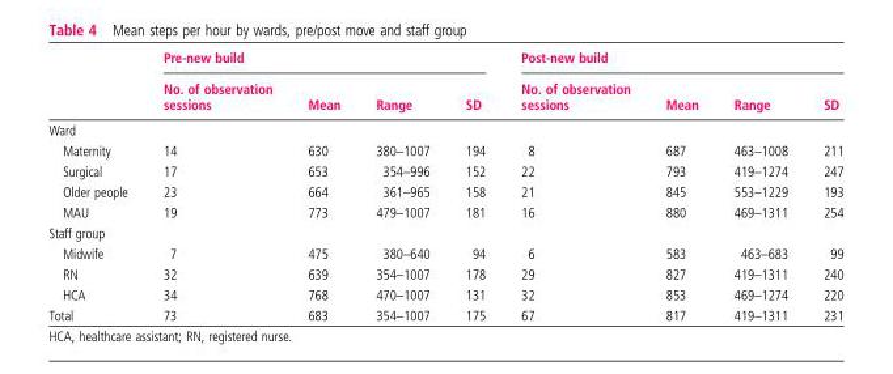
<table><thead><tr><td rowspan="2"></td><td colspan="4">Pre-new build</td><td colspan="4">Post-new build</td></tr><tr><td>No. of observation sessions</td><td>Mean</td><td>Range</td><td>SD</td><td>No. of observation sessions</td><td>Mean</td><td>Range</td><td>SD</td></tr></thead><tbody><tr><td colspan="9">Ward</td></tr><tr><td>Maternity</td><td>14</td><td>630</td><td>380–1007</td><td>194</td><td>8</td><td>687</td><td>463–1008</td><td>211</td></tr><tr><td>Surgical</td><td>17</td><td>653</td><td>354–996</td><td>152</td><td>22</td><td>793</td><td>419–1274</td><td>247</td></tr><tr><td>Older people</td><td>23</td><td>664</td><td>361–965</td><td>158</td><td>21</td><td>845</td><td>553–1229</td><td>193</td></tr><tr><td>MAU</td><td>19</td><td>773</td><td>479–1007</td><td>181</td><td>16</td><td>880</td><td>469–1311</td><td>254</td></tr><tr><td colspan="9">Staff group</td></tr><tr><td>Midwife</td><td>7</td><td>475</td><td>380–640</td><td>94</td><td>6</td><td>583</td><td>463–683</td><td>99</td></tr><tr><td>RN</td><td>32</td><td>639</td><td>354–1007</td><td>178</td><td>29</td><td>827</td><td>419–1311</td><td>240</td></tr><tr><td>HCA</td><td>34</td><td>768</td><td>470–1007</td><td>131</td><td>32</td><td>853</td><td>469–1274</td><td>220</td></tr><tr><td>Total</td><td>73</td><td>683</td><td>354–1007</td><td>175</td><td>67</td><td>817</td><td>419–1311</td><td>231</td></tr></tbody></table>